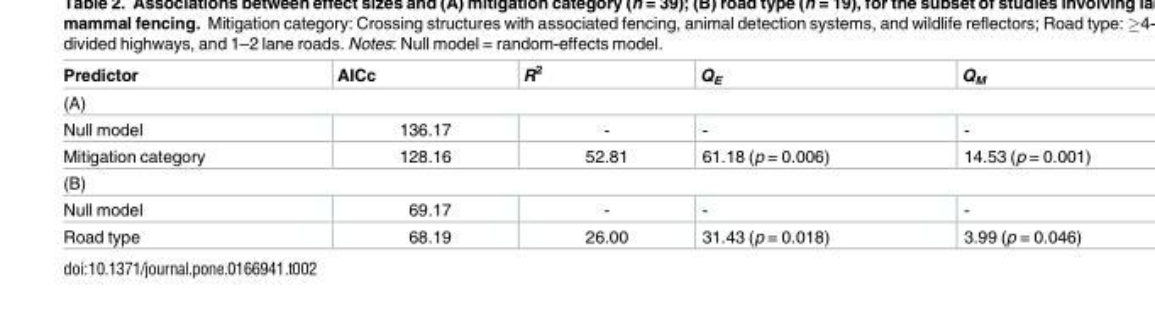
<table><thead><tr><td>Predictor</td><td>AICc</td><td>R<sup>2</sup></td><td>Q<sub>E</sub></td><td>Q<sub>M</sub></td></tr></thead><tbody><tr><td colspan="5">(A)</td></tr><tr><td>Null model</td><td>136.17</td><td>-</td><td>-</td><td>-</td></tr><tr><td>Mitigation category</td><td>128.16</td><td>52.81</td><td>61.18 (p = 0.006)</td><td>14.53 (p = 0.001)</td></tr><tr><td colspan="5">(B)</td></tr><tr><td>Null model</td><td>69.17</td><td>-</td><td>-</td><td>-</td></tr><tr><td>Road type</td><td>68.19</td><td>26.00</td><td>31.43 (p = 0.018)</td><td>3.99 (p = 0.046)</td></tr></tbody></table>